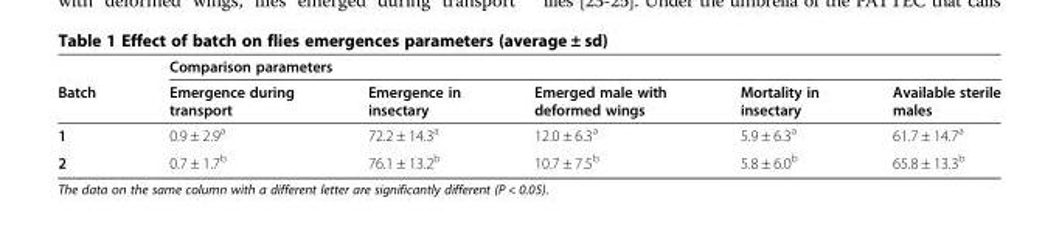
<table><thead><tr><td rowspan="2">Batch</td><td colspan="5">Comparison parameters</td></tr><tr><td>Emergence during transport</td><td>Emergence in insectary</td><td>Emerged male with deformed wings</td><td>Mortality in insectary</td><td>Available sterile males</td></tr></thead><tbody><tr><td>1</td><td>0.9 ± 2.9<sup>a</sup></td><td>72.2 ± 14.3<sup>a</sup></td><td>12.0 ± 6.3<sup>a</sup></td><td>5.9 ± 6.3<sup>a</sup></td><td>61.7 ± 14.7<sup>a</sup></td></tr><tr><td>2</td><td>0.7 ± 1.7<sup>b</sup></td><td>76.1 ± 13.2<sup>b</sup></td><td>10.7 ± 7.5<sup>b</sup></td><td>5.8 ± 6.0<sup>b</sup></td><td>65.8 ± 13.3<sup>b</sup></td></tr></tbody></table>